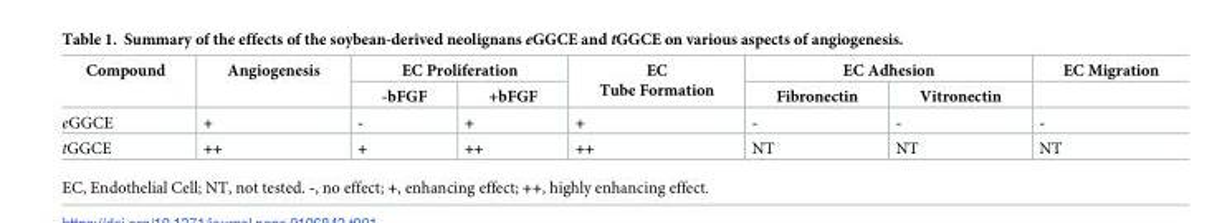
<table><thead><tr><td rowspan="2">Compound</td><td rowspan="2">Angiogenesis</td><td colspan="2">EC Proliferation</td><td rowspan="2">EC Tube Formation</td><td colspan="2">EC Adhesion</td><td rowspan="2">EC Migration</td></tr><tr><td>-bFGF</td><td>+bFGF</td><td>Fibronectin</td><td>Vitronectin</td></tr></thead><tbody><tr><td>eGGCE</td><td>+</td><td>-</td><td>+</td><td>+</td><td>-</td><td>-</td><td>-</td></tr><tr><td>tGGCE</td><td>++</td><td>+</td><td>++</td><td>++</td><td>NT</td><td>NT</td><td>NT</td></tr></tbody></table>